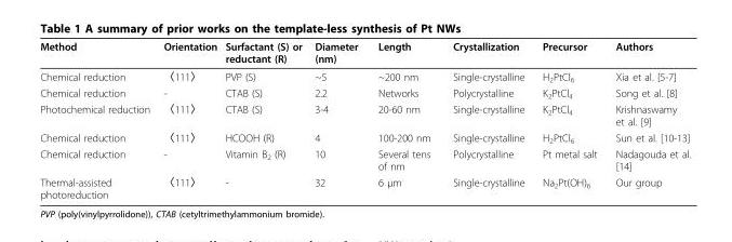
<table><thead><tr><td>Method</td><td>Orientation</td><td>Surfactant (S) or reductant (R)</td><td>Diameter (nm)</td><td>Length</td><td>Crystallization</td><td>Precursor</td><td>Authors</td></tr></thead><tbody><tr><td>Chemical reduction</td><td>〈111〉</td><td>PVP (S)</td><td>~5</td><td>~200 nm</td><td>Single-crystalline</td><td>H<sub>2</sub>PtCl<sub>6</sub></td><td>Xia et al. [5-7]</td></tr><tr><td>Chemical reduction</td><td>-</td><td>CTAB (S)</td><td>2.2</td><td>Networks</td><td>Polycrystalline</td><td>K<sub>2</sub>PtCl<sub>4</sub></td><td>Song et al. [8]</td></tr><tr><td>Photochemical reduction</td><td>〈111〉</td><td>CTAB (S)</td><td>3-4</td><td>20-60 nm</td><td>Single-crystalline</td><td>K<sub>2</sub>PtCl<sub>4</sub></td><td>Krishnaswamy et al. [9]</td></tr><tr><td>Chemical reduction</td><td>〈111〉</td><td>HCOOH (R)</td><td>4</td><td>100-200 nm</td><td>Single-crystalline</td><td>H<sub>2</sub>PtCl<sub>6</sub></td><td>Sun et al. [10-13]</td></tr><tr><td>Chemical reduction</td><td>-</td><td>Vitamin B<sub>2</sub> (R)</td><td>10</td><td>Several tens of nm</td><td>Polycrystalline</td><td>Pt metal salt</td><td>Nadagouda et al. [14]</td></tr><tr><td>Thermal-assisted photoreduction</td><td>〈111〉</td><td>-</td><td>32</td><td>6 μm</td><td>Single-crystalline</td><td>Na<sub>2</sub>Pt(OH)<sub>6</sub></td><td>Our group</td></tr></tbody></table>